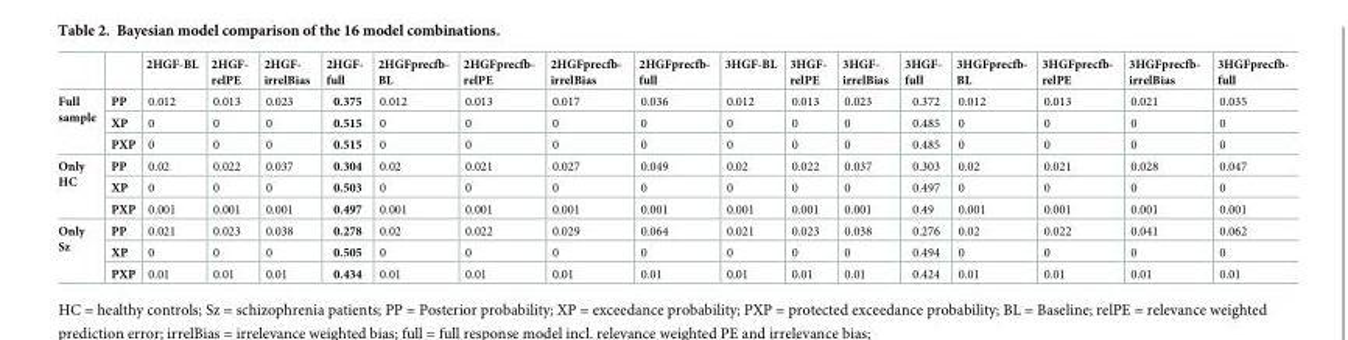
<table><thead><tr><td></td><td></td><td>2HGF-BL</td><td>2HGF- relPE</td><td>2HGF- irrelBias</td><td>2HGF- full</td><td>2HGFprecfb- BL</td><td>2HGFprecfb- relPE</td><td>2HGFprecfb- irrelBias</td><td>2HGFprecfb- full</td><td>3HGF-BL</td><td>3HGF- relPE</td><td>3HGF- irrelBias</td><td>3HGF- full</td><td>3HGFprecfb- BL</td><td>3HGFprecfb- relPE</td><td>3HGFprecfb- irrelBias</td><td>3HGFprecfb- full</td></tr></thead><tbody><tr><td rowspan="3">Full sample</td><td>PP</td><td>0.012</td><td>0.013</td><td>0.023</td><td>0.375</td><td>0.012</td><td>0.013</td><td>0.017</td><td>0.036</td><td>0.012</td><td>0.013</td><td>0.023</td><td>0.372</td><td>0.012</td><td>0.013</td><td>0.021</td><td>0.035</td></tr><tr><td>XP</td><td>0</td><td>0</td><td>0</td><td>0.515</td><td>0</td><td>0</td><td>0</td><td>0</td><td>0</td><td>0</td><td>0</td><td>0.485</td><td>0</td><td>0</td><td>0</td><td>0</td></tr><tr><td>PXP</td><td>0</td><td>0</td><td>0</td><td>0.515</td><td>0</td><td>0</td><td>0</td><td>0</td><td>0</td><td>0</td><td>0</td><td>0.485</td><td>0</td><td>0</td><td>0</td><td>0</td></tr><tr><td rowspan="3">Only HC</td><td>PP</td><td>0.02</td><td>0.022</td><td>0.037</td><td>0.304</td><td>0.02</td><td>0.021</td><td>0.027</td><td>0.049</td><td>0.02</td><td>0.022</td><td>0.037</td><td>0.303</td><td>0.02</td><td>0.021</td><td>0.028</td><td>0.047</td></tr><tr><td>XP</td><td>0</td><td>0</td><td>0</td><td>0.503</td><td>0</td><td>0</td><td>0</td><td>0</td><td>0</td><td>0</td><td>0</td><td>0.497</td><td>0</td><td>0</td><td>0</td><td>0</td></tr><tr><td>PXP</td><td>0.001</td><td>0.001</td><td>0.001</td><td>0.497</td><td>0.001</td><td>0.001</td><td>0.001</td><td>0.001</td><td>0.001</td><td>0.001</td><td>0.001</td><td>0.49</td><td>0.001</td><td>0.001</td><td>0.001</td><td>0.001</td></tr><tr><td rowspan="3">Only Sz</td><td>PP</td><td>0.021</td><td>0.023</td><td>0.038</td><td>0.278</td><td>0.02</td><td>0.022</td><td>0.029</td><td>0.064</td><td>0.021</td><td>0.023</td><td>0.038</td><td>0.276</td><td>0.02</td><td>0.022</td><td>0.041</td><td>0.062</td></tr><tr><td>XP</td><td>0</td><td>0</td><td>0</td><td>0.505</td><td>0</td><td>0</td><td>0</td><td>0</td><td>0</td><td>0</td><td>0</td><td>0.494</td><td>0</td><td>0</td><td>0</td><td>0</td></tr><tr><td>PXP</td><td>0.01</td><td>0.01</td><td>0.01</td><td>0.434</td><td>0.01</td><td>0.01</td><td>0.01</td><td>0.01</td><td>0.01</td><td>0.01</td><td>0.01</td><td>0.424</td><td>0.01</td><td>0.01</td><td>0.01</td><td>0.01</td></tr></tbody></table>